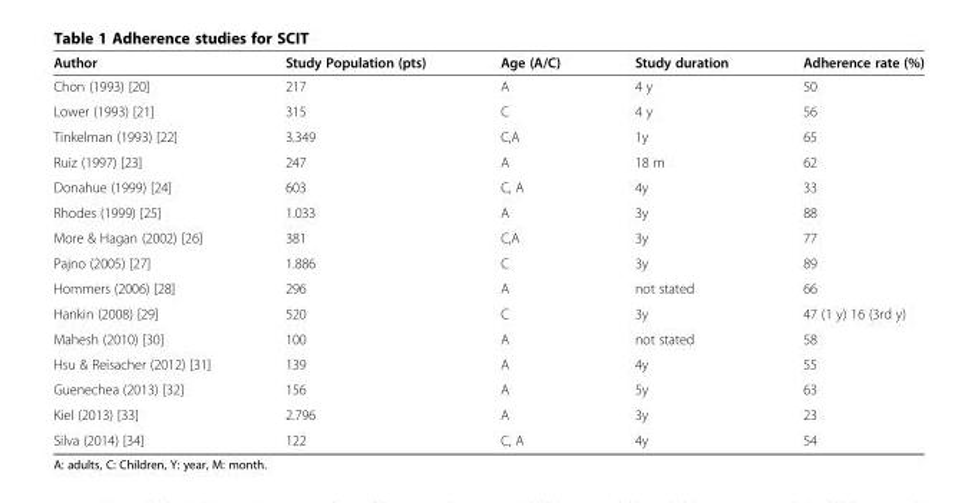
<table><thead><tr><td>Author</td><td>Study Population (pts)</td><td>Age (A/C)</td><td>Study duration</td><td>Adherence rate (%)</td></tr></thead><tbody><tr><td>Chon (1993) [20]</td><td>217</td><td>A</td><td>4 y</td><td>50</td></tr><tr><td>Lower (1993) [21]</td><td>315</td><td>C</td><td>4 y</td><td>56</td></tr><tr><td>Tinkelman (1993) [22]</td><td>3.349</td><td>C,A</td><td>1y</td><td>65</td></tr><tr><td>Ruiz (1997) [23]</td><td>247</td><td>A</td><td>18 m</td><td>62</td></tr><tr><td>Donahue (1999) [24]</td><td>603</td><td>C, A</td><td>4y</td><td>33</td></tr><tr><td>Rhodes (1999) [25]</td><td>1.033</td><td>A</td><td>3y</td><td>88</td></tr><tr><td>More &amp; Hagan (2002) [26]</td><td>381</td><td>C,A</td><td>3y</td><td>77</td></tr><tr><td>Pajno (2005) [27]</td><td>1.886</td><td>C</td><td>3y</td><td>89</td></tr><tr><td>Hommers (2006) [28]</td><td>296</td><td>A</td><td>not stated</td><td>66</td></tr><tr><td>Hankin (2008) [29]</td><td>520</td><td>C</td><td>3y</td><td>47 (1 y) 16 (3rd y)</td></tr><tr><td>Mahesh (2010) [30]</td><td>100</td><td>A</td><td>not stated</td><td>58</td></tr><tr><td>Hsu &amp; Reisacher (2012) [31]</td><td>139</td><td>A</td><td>4y</td><td>55</td></tr><tr><td>Guenechea (2013) [32]</td><td>156</td><td>A</td><td>5y</td><td>63</td></tr><tr><td>Kiel (2013) [33]</td><td>2.796</td><td>A</td><td>3y</td><td>23</td></tr><tr><td>Silva (2014) [34]</td><td>122</td><td>C, A</td><td>4y</td><td>54</td></tr></tbody></table>